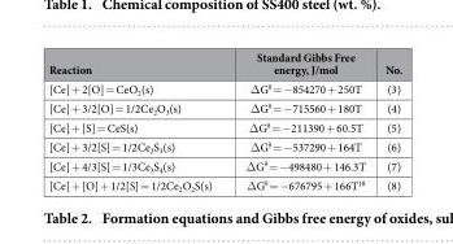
<table><thead><tr><td>Reaction</td><td>Standard Gibbs Free energy, J/mol</td><td>No.</td></tr></thead><tbody><tr><td>[Ce] + 2[O] = CeO<sub>2</sub>(s)</td><td>Δ G<sup>θ</sup> = − 854270 + 250T</td><td>(3)</td></tr><tr><td>[Ce] + 3/2[O] = 1/2Ce<sub>2</sub>O<sub>3</sub>(s)</td><td>Δ G<sup>θ</sup> = − 715560 + 180T</td><td>(4)</td></tr><tr><td>[Ce] + [S] = CeS(s)</td><td>Δ G<sup>θ</sup> = − 211390 + 60.5T</td><td>(5)</td></tr><tr><td>[Ce] + 3/2[S] = 1/2Ce<sub>2</sub>S<sub>3</sub>(s)</td><td>Δ G<sup>θ</sup> = − 537290 + 164T</td><td>(6)</td></tr><tr><td>[Ce] + 4/3[S] = 1/3Ce<sub>3</sub>S<sub>4</sub>(s)</td><td>Δ G<sup>θ</sup> = − 498480 + 146.3T</td><td>(7)</td></tr><tr><td>[Ce] + [O] + 1/2[S] = 1/2Ce<sub>2</sub>O<sub>2</sub>S(s)</td><td>Δ G<sup>θ</sup> = − 676795 + 166T<sup>18</sup></td><td>(8)</td></tr></tbody></table>